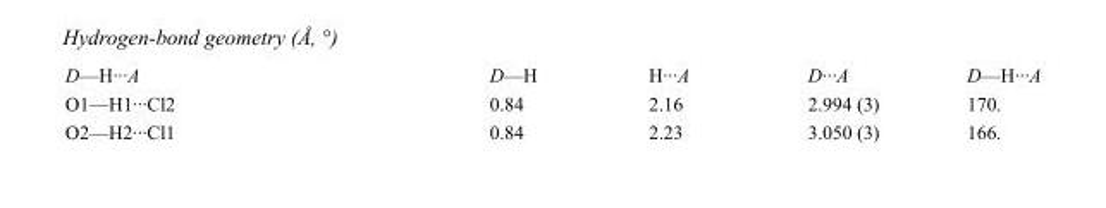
<table><tbody><tr><td>D—H···A</td><td>D—H</td><td>H···A</td><td>D···A</td><td>D—H···A</td></tr><tr><td>O1—H1···Cl2</td><td>0.84</td><td>2.16</td><td>2.994 (3)</td><td>170.</td></tr><tr><td>O2—H2···Cl1</td><td>0.84</td><td>2.23</td><td>3.050 (3)</td><td>166.</td></tr></tbody></table>